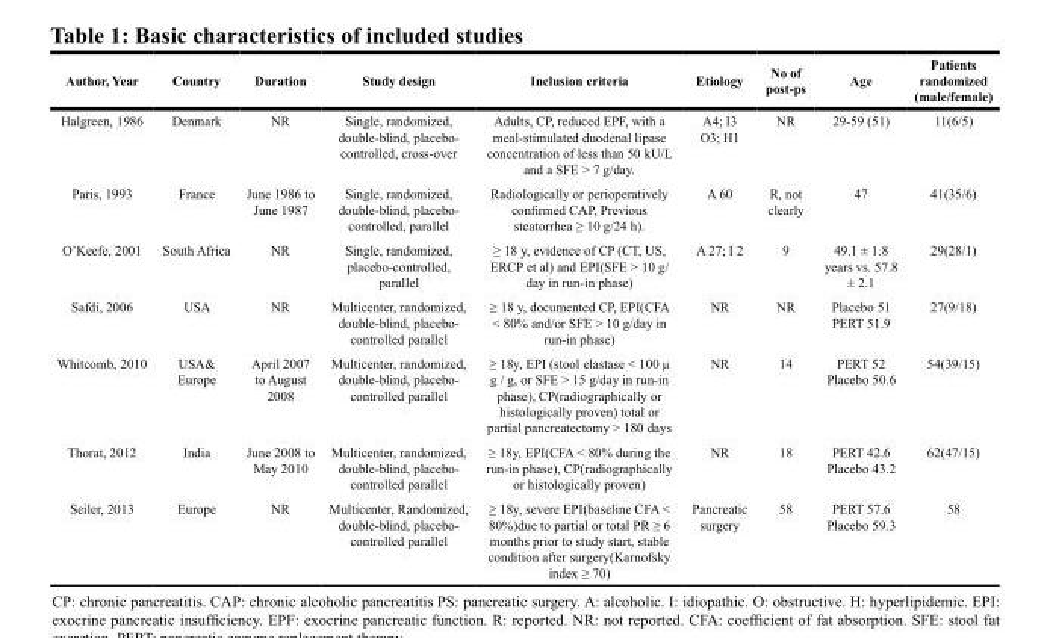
<table><thead><tr><td>Author, Year</td><td>Country</td><td>Duration</td><td>Study design</td><td>Inclusion criteria</td><td>Etiology</td><td>No of post-ps</td><td>Age</td><td>Patients randomized (male/female)</td></tr></thead><tbody><tr><td>Halgreen, 1986</td><td>Denmark</td><td>NR</td><td>Single, randomized, double-blind, placebo- controlled, cross-over</td><td>Adults, CP, reduced EPF, with a meal-stimulated duodenal lipase concentration of less than 50 kU/L and a SFE &gt; 7 g/day.</td><td>A4; I3 O3; H1</td><td>NR</td><td>29-59 (51)</td><td>11(6/5)</td></tr><tr><td>Paris, 1993</td><td>France</td><td>June 1986 to June 1987</td><td>Single, randomized, double-blind, placebo- controlled, parallel</td><td>Radiologically or perioperatively confirmed CAP, Previous steatorrhea ≥ 10 g/24 h).</td><td>A 60</td><td>R, not clearly</td><td>47</td><td>41(35/6)</td></tr><tr><td>O’Keefe, 2001</td><td>South Africa</td><td>NR</td><td>Single, randomized, placebo-controlled, parallel</td><td>≥ 18 y, evidence of CP (CT, US, ERCP et al) and EPI(SFE &gt; 10 g/ day in run-in phase)</td><td>A 27; I 2</td><td>9</td><td>49.1 ± 1.8 years vs. 57.8 ± 2.1</td><td>29(28/1)</td></tr><tr><td>Safdi, 2006</td><td>USA</td><td>NR</td><td>Multicenter, randomized, double-blind, placebo- controlled parallel</td><td>≥ 18 y, documented CP, EPI(CFA &lt; 80% and/or SFE &gt; 10 g/day in run-in phase)</td><td>NR</td><td>NR</td><td>Placebo 51 PERT 51.9</td><td>27(9/18)</td></tr><tr><td>Whitcomb, 2010</td><td>USA&amp; Europe</td><td>April 2007 to August 2008</td><td>Multicenter, randomized, double-blind, placebo- controlled parallel</td><td>≥ 18y, EPI (stool elastase &lt; 100 μ g / g, or SFE &gt; 15 g/day in run-in phase), CP(radiographically or histologically proven) total or partial pancreatectomy &gt; 180 days</td><td>NR</td><td>14</td><td>PERT 52 Placebo 50.6</td><td>54(39/15)</td></tr><tr><td>Thorat, 2012</td><td>India</td><td>June 2008 to May 2010</td><td>Multicenter, randomized, double-blind, placebo- controlled parallel</td><td>≥ 18y, EPI(CFA &lt; 80% during the run-in phase), CP(radiographically or histologically proven)</td><td>NR</td><td>18</td><td>PERT 42.6 Placebo 43.2</td><td>62(47/15)</td></tr><tr><td>Seiler, 2013</td><td>Europe</td><td>NR</td><td>Multicenter, Randomized, double-blind, placebo- controlled parallel</td><td>≥ 18y, severe EPI(baseline CFA &lt; 80%)due to partial or total PR ≥ 6 months prior to study start, stable condition after surgery(Karnofsky index ≥ 70)</td><td>Pancreatic surgery</td><td>58</td><td>PERT 57.6 Placebo 59.3</td><td>58</td></tr></tbody></table>